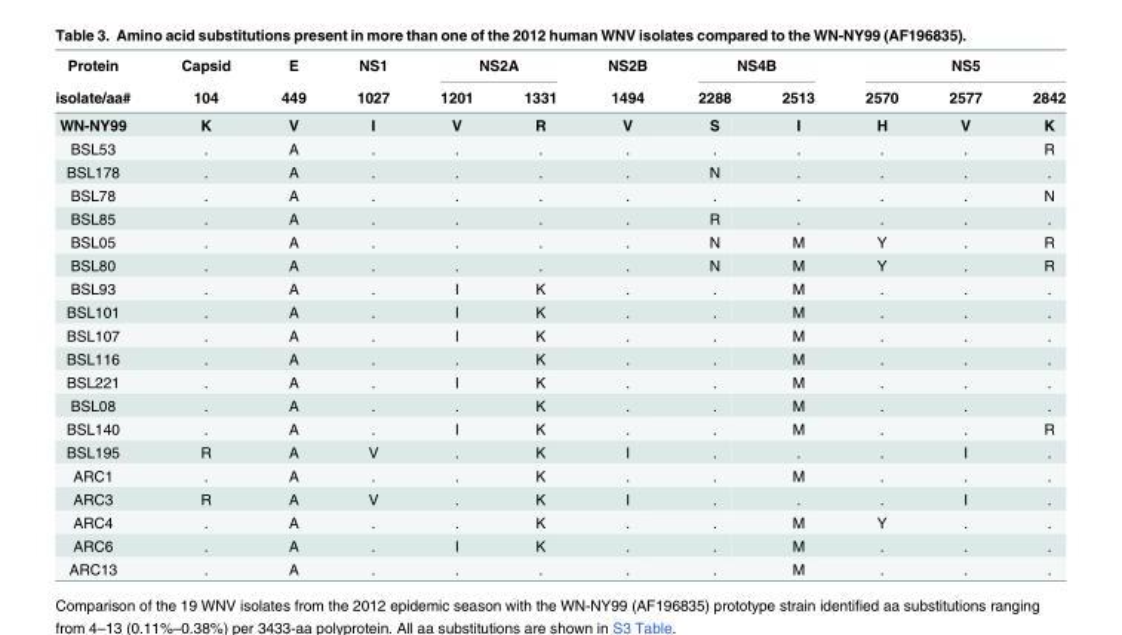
<table><thead><tr><td rowspan="2">Protein isolate/aa#</td><td rowspan="2">Capsid 104</td><td rowspan="2">E 449</td><td rowspan="2">NS1 1027</td><td colspan="2">NS2A</td><td rowspan="2">NS2B 1494</td><td colspan="2">NS4B</td><td colspan="3">NS5</td></tr><tr><td>1201</td><td>1331</td><td>2288</td><td>2513</td><td>2570</td><td>2577</td><td>2842</td></tr></thead><tbody><tr><td>WN-NY99</td><td>K</td><td>V</td><td>I</td><td>V</td><td>R</td><td>V</td><td>S</td><td>I</td><td>H</td><td>V</td><td>K</td></tr><tr><td>BSL53</td><td>.</td><td>A</td><td>.</td><td>.</td><td>.</td><td>.</td><td>.</td><td>.</td><td>.</td><td>.</td><td>R</td></tr><tr><td>BSL178</td><td>.</td><td>A</td><td>.</td><td>.</td><td>.</td><td>.</td><td>N</td><td>.</td><td>.</td><td>.</td><td>.</td></tr><tr><td>BSL78</td><td>.</td><td>A</td><td>.</td><td>.</td><td>.</td><td>.</td><td>.</td><td>.</td><td>.</td><td>.</td><td>N</td></tr><tr><td>BSL85</td><td>.</td><td>A</td><td>.</td><td>.</td><td>.</td><td>.</td><td>R</td><td>.</td><td>.</td><td>.</td><td>.</td></tr><tr><td>BSL05</td><td>.</td><td>A</td><td>.</td><td>.</td><td>.</td><td>.</td><td>N</td><td>M</td><td>Y</td><td>.</td><td>R</td></tr><tr><td>BSL80</td><td>.</td><td>A</td><td>.</td><td>.</td><td>.</td><td>.</td><td>N</td><td>M</td><td>Y</td><td>.</td><td>R</td></tr><tr><td>BSL93</td><td>.</td><td>A</td><td>.</td><td>I</td><td>K</td><td>.</td><td>.</td><td>M</td><td>.</td><td>.</td><td>.</td></tr><tr><td>BSL101</td><td>.</td><td>A</td><td>.</td><td>I</td><td>K</td><td>.</td><td>.</td><td>M</td><td>.</td><td>.</td><td>.</td></tr><tr><td>BSL107</td><td>.</td><td>A</td><td>.</td><td>I</td><td>K</td><td>.</td><td>.</td><td>M</td><td>.</td><td>.</td><td>.</td></tr><tr><td>BSL116</td><td>.</td><td>A</td><td>.</td><td>.</td><td>K</td><td>.</td><td>.</td><td>M</td><td>.</td><td>.</td><td>.</td></tr><tr><td>BSL221</td><td>.</td><td>A</td><td>.</td><td>I</td><td>K</td><td>.</td><td>.</td><td>M</td><td>.</td><td>.</td><td>.</td></tr><tr><td>BSL08</td><td>.</td><td>A</td><td>.</td><td>.</td><td>K</td><td>.</td><td>.</td><td>M</td><td>.</td><td>.</td><td>.</td></tr><tr><td>BSL140</td><td>.</td><td>A</td><td>.</td><td>I</td><td>K</td><td>.</td><td>.</td><td>M</td><td>.</td><td>.</td><td>R</td></tr><tr><td>BSL195</td><td>R</td><td>A</td><td>V</td><td>.</td><td>K</td><td>I</td><td>.</td><td>.</td><td>.</td><td>I</td><td>.</td></tr><tr><td>ARC1</td><td>.</td><td>A</td><td>.</td><td>.</td><td>K</td><td>.</td><td>.</td><td>M</td><td>.</td><td>.</td><td>.</td></tr><tr><td>ARC3</td><td>R</td><td>A</td><td>V</td><td>.</td><td>K</td><td>I</td><td>.</td><td>.</td><td>.</td><td>I</td><td>.</td></tr><tr><td>ARC4</td><td>.</td><td>A</td><td>.</td><td>.</td><td>K</td><td>.</td><td>.</td><td>M</td><td>Y</td><td>.</td><td>.</td></tr><tr><td>ARC6</td><td>.</td><td>A</td><td>.</td><td>I</td><td>K</td><td>.</td><td>.</td><td>M</td><td>.</td><td>.</td><td>.</td></tr><tr><td>ARC13</td><td>.</td><td>A</td><td>.</td><td>.</td><td>.</td><td>.</td><td>.</td><td>M</td><td>.</td><td>.</td><td>.</td></tr></tbody></table>